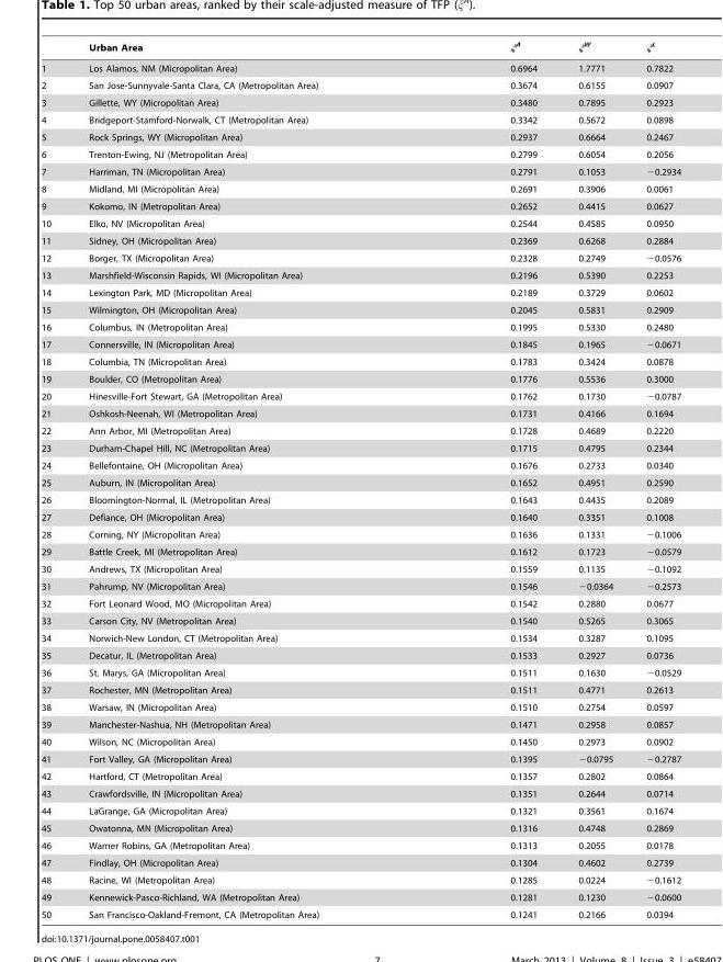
<table><thead><tr><td></td><td>Urban Area</td><td>ξ<sup>A</sup></td><td>ξ<sup>W</sup></td><td>ξ<sup>L</sup></td></tr></thead><tbody><tr><td>1</td><td>Los Alamos, NM (Micropolitan Area)</td><td>0.6964</td><td>1.7771</td><td>0.7822</td></tr><tr><td>2</td><td>San Jose-Sunnyvale-Santa Clara, CA (Metropolitan Area)</td><td>0.3674</td><td>0.6155</td><td>0.0907</td></tr><tr><td>3</td><td>Gillette, WY (Micropolitan Area)</td><td>0.3480</td><td>0.7895</td><td>0.2923</td></tr><tr><td>4</td><td>Bridgeport-Stamford-Norwalk, CT (Metropolitan Area)</td><td>0.3342</td><td>0.5672</td><td>0.0898</td></tr><tr><td>5</td><td>Rock Springs, WY (Micropolitan Area)</td><td>0.2937</td><td>0.6664</td><td>0.2467</td></tr><tr><td>6</td><td>Trenton-Ewing, NJ (Metropolitan Area)</td><td>0.2799</td><td>0.6054</td><td>0.2056</td></tr><tr><td>7</td><td>Harriman, TN (Micropolitan Area)</td><td>0.2791</td><td>0.1053</td><td>−0.2934</td></tr><tr><td>8</td><td>Midland, MI (Micropolitan Area)</td><td>0.2691</td><td>0.3906</td><td>0.0061</td></tr><tr><td>9</td><td>Kokomo, IN (Metropolitan Area)</td><td>0.2652</td><td>0.4415</td><td>0.0627</td></tr><tr><td>10</td><td>Elko, NV (Micropolitan Area)</td><td>0.2544</td><td>0.4585</td><td>0.0950</td></tr><tr><td>11</td><td>Sidney, OH (Micropolitan Area)</td><td>0.2369</td><td>0.6268</td><td>0.2884</td></tr><tr><td>12</td><td>Borger, TX (Micropolitan Area)</td><td>0.2328</td><td>0.2749</td><td>−0.0576</td></tr><tr><td>13</td><td>Marshfield-Wisconsin Rapids, WI (Micropolitan Area)</td><td>0.2196</td><td>0.5390</td><td>0.2253</td></tr><tr><td>14</td><td>Lexington Park, MD (Micropolitan Area)</td><td>0.2189</td><td>0.3729</td><td>0.0602</td></tr><tr><td>15</td><td>Wilmington, OH (Micropolitan Area)</td><td>0.2045</td><td>0.5831</td><td>0.2909</td></tr><tr><td>16</td><td>Columbus, IN (Metropolitan Area)</td><td>0.1995</td><td>0.5330</td><td>0.2480</td></tr><tr><td>17</td><td>Connersville, IN (Micropolitan Area)</td><td>0.1845</td><td>0.1965</td><td>−0.0671</td></tr><tr><td>18</td><td>Columbia, TN (Micropolitan Area)</td><td>0.1783</td><td>0.3424</td><td>0.0878</td></tr><tr><td>19</td><td>Boulder, CO (Metropolitan Area)</td><td>0.1776</td><td>0.5536</td><td>0.3000</td></tr><tr><td>20</td><td>Hinesville-Fort Stewart, GA (Metropolitan Area)</td><td>0.1762</td><td>0.1730</td><td>−0.0787</td></tr><tr><td>21</td><td>Oshkosh-Neenah, WI (Metropolitan Area)</td><td>0.1731</td><td>0.4166</td><td>0.1694</td></tr><tr><td>22</td><td>Ann Arbor, MI (Metropolitan Area)</td><td>0.1728</td><td>0.4689</td><td>0.2220</td></tr><tr><td>23</td><td>Durham-Chapel Hill, NC (Metropolitan Area)</td><td>0.1715</td><td>0.4795</td><td>0.2344</td></tr><tr><td>24</td><td>Bellefontaine, OH (Micropolitan Area)</td><td>0.1676</td><td>0.2733</td><td>0.0340</td></tr><tr><td>25</td><td>Auburn, IN (Micropolitan Area)</td><td>0.1652</td><td>0.4951</td><td>0.2590</td></tr><tr><td>26</td><td>Bloomington-Normal, IL (Metropolitan Area)</td><td>0.1643</td><td>0.4435</td><td>0.2089</td></tr><tr><td>27</td><td>Defiance, OH (Micropolitan Area)</td><td>0.1640</td><td>0.3351</td><td>0.1008</td></tr><tr><td>28</td><td>Corning, NY (Micropolitan Area)</td><td>0.1636</td><td>0.1331</td><td>−0.1006</td></tr><tr><td>29</td><td>Battle Creek, MI (Metropolitan Area)</td><td>0.1612</td><td>0.1723</td><td>−0.0579</td></tr><tr><td>30</td><td>Andrews, TX (Micropolitan Area)</td><td>0.1559</td><td>0.1135</td><td>−0.1092</td></tr><tr><td>31</td><td>Pahrump, NV (Micropolitan Area)</td><td>0.1546</td><td>−0.0364</td><td>−0.2573</td></tr><tr><td>32</td><td>Fort Leonard Wood, MO (Micropolitan Area)</td><td>0.1542</td><td>0.2880</td><td>0.0677</td></tr><tr><td>33</td><td>Carson City, NV (Metropolitan Area)</td><td>0.1540</td><td>0.5265</td><td>0.3065</td></tr><tr><td>34</td><td>Norwich-New London, CT (Metropolitan Area)</td><td>0.1534</td><td>0.3287</td><td>0.1095</td></tr><tr><td>35</td><td>Decatur, IL (Metropolitan Area)</td><td>0.1533</td><td>0.2927</td><td>0.0736</td></tr><tr><td>36</td><td>St. Marys, GA (Micropolitan Area)</td><td>0.1511</td><td>0.1630</td><td>−0.0529</td></tr><tr><td>37</td><td>Rochester, MN (Metropolitan Area)</td><td>0.1511</td><td>0.4771</td><td>0.2613</td></tr><tr><td>38</td><td>Warsaw, IN (Micropolitan Area)</td><td>0.1510</td><td>0.2754</td><td>0.0597</td></tr><tr><td>39</td><td>Manchester-Nashua, NH (Metropolitan Area)</td><td>0.1471</td><td>0.2958</td><td>0.0857</td></tr><tr><td>40</td><td>Wilson, NC (Micropolitan Area)</td><td>0.1450</td><td>0.2973</td><td>0.0902</td></tr><tr><td>41</td><td>Fort Valley, GA (Micropolitan Area)</td><td>0.1395</td><td>−0.0795</td><td>−0.2787</td></tr><tr><td>42</td><td>Hartford, CT (Metropolitan Area)</td><td>0.1357</td><td>0.2802</td><td>0.0864</td></tr><tr><td>43</td><td>Crawfordsville, IN (Micropolitan Area)</td><td>0.1351</td><td>0.2644</td><td>0.0714</td></tr><tr><td>44</td><td>LaGrange, GA (Micropolitan Area)</td><td>0.1321</td><td>0.3561</td><td>0.1674</td></tr><tr><td>45</td><td>Owatonna, MN (Micropolitan Area)</td><td>0.1316</td><td>0.4748</td><td>0.2869</td></tr><tr><td>46</td><td>Warner Robins, GA (Metropolitan Area)</td><td>0.1313</td><td>0.2055</td><td>0.0178</td></tr><tr><td>47</td><td>Findlay, OH (Micropolitan Area)</td><td>0.1304</td><td>0.4602</td><td>0.2739</td></tr><tr><td>48</td><td>Racine, WI (Metropolitan Area)</td><td>0.1285</td><td>0.0224</td><td>−0.1612</td></tr><tr><td>49</td><td>Kennewick-Pasco-Richland, WA (Metropolitan Area)</td><td>0.1281</td><td>0.1230</td><td>−0.0600</td></tr><tr><td>50</td><td>San Francisco-Oakland-Fremont, CA (Metropolitan Area)</td><td>0.1241</td><td>0.2166</td><td>0.0394</td></tr></tbody></table>